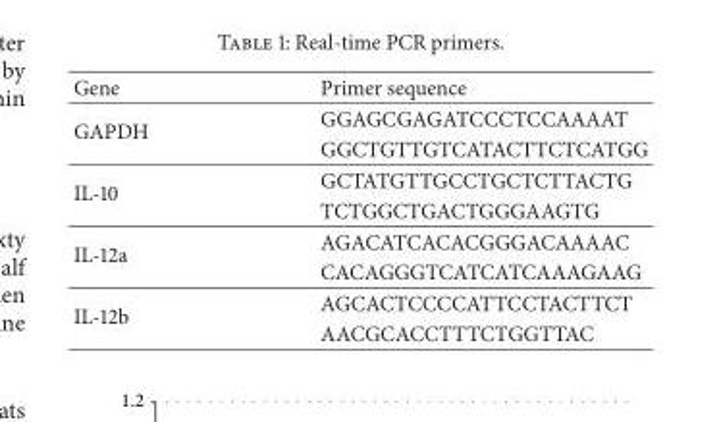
<table><thead><tr><td>Gene</td><td>Primer sequence</td></tr></thead><tbody><tr><td rowspan="2">GAPDH</td><td>GGAGCGAGATCCCTCCAAAAT</td></tr><tr><td>GGCTGTTGTCATACTTCTCATGG</td></tr><tr><td rowspan="2">IL-10</td><td>GCTATGTTGCCTGCTCTTACTG</td></tr><tr><td>TCTGGCTGACTGGGAAGTG</td></tr><tr><td rowspan="2">IL-12a</td><td>AGACATCACACGGGACAAAAC</td></tr><tr><td>CACAGGGTCATCATCAAAGAAG</td></tr><tr><td rowspan="2">IL-12b</td><td>AGCACTCCCCATTCCTACTTCT</td></tr><tr><td>AACGCACCTTTCTGGTTAC</td></tr></tbody></table>